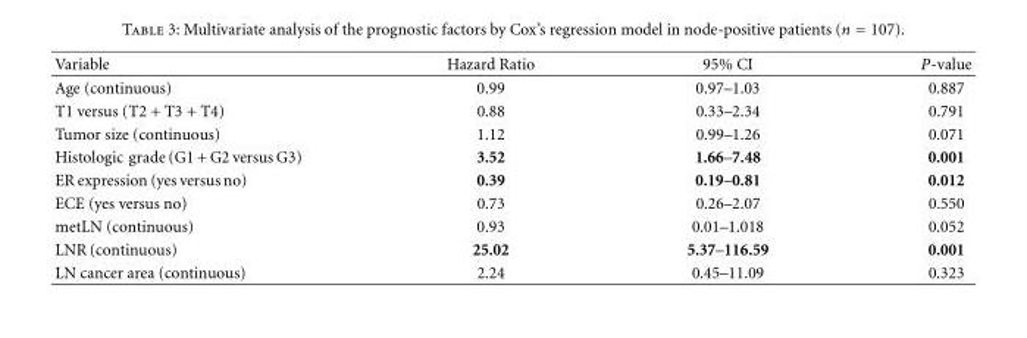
<table><thead><tr><td>Variable</td><td>Hazard Ratio</td><td>95% CI</td><td>P-value</td></tr></thead><tbody><tr><td>Age (continuous)</td><td>0.99</td><td>0.97–1.03</td><td>0.887</td></tr><tr><td>T1 versus (T2 + T3 + T4)</td><td>0.88</td><td>0.33–2.34</td><td>0.791</td></tr><tr><td>Tumor size (continuous)</td><td>1.12</td><td>0.99–1.26</td><td>0.071</td></tr><tr><td>Histologic grade (G1 + G2 versus G3)</td><td>3.52</td><td>1.66–7.48</td><td>0.001</td></tr><tr><td>ER expression (yes versus no)</td><td>0.39</td><td>0.19–0.81</td><td>0.012</td></tr><tr><td>ECE (yes versus no)</td><td>0.73</td><td>0.26–2.07</td><td>0.550</td></tr><tr><td>metLN (continuous)</td><td>0.93</td><td>0.01–1.018</td><td>0.052</td></tr><tr><td>LNR (continuous)</td><td>25.02</td><td>5.37–116.59</td><td>0.001</td></tr><tr><td>LN cancer area (continuous)</td><td>2.24</td><td>0.45–11.09</td><td>0.323</td></tr></tbody></table>